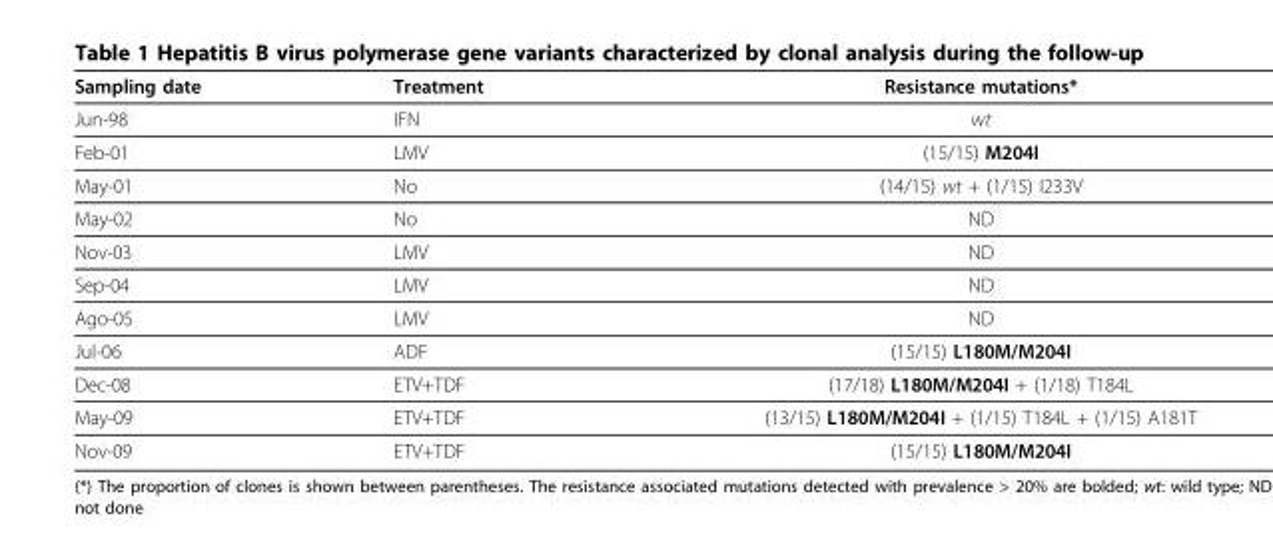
<table><thead><tr><td>Sampling date</td><td>Treatment</td><td>Resistance mutations*</td></tr></thead><tbody><tr><td>Jun-98</td><td>IFN</td><td>wt</td></tr><tr><td>Feb-01</td><td>LMV</td><td>(15/15) M204I</td></tr><tr><td>May-01</td><td>No</td><td>(14/15) wt + (1/15) I233V</td></tr><tr><td>May-02</td><td>No</td><td>ND</td></tr><tr><td>Nov-03</td><td>LMV</td><td>ND</td></tr><tr><td>Sep-04</td><td>LMV</td><td>ND</td></tr><tr><td>Ago-05</td><td>LMV</td><td>ND</td></tr><tr><td>Jul-06</td><td>ADF</td><td>(15/15) L180M/M204I</td></tr><tr><td>Dec-08</td><td>ETV+TDF</td><td>(17/18) L180M/M204I + (1/18) T184L</td></tr><tr><td>May-09</td><td>ETV+TDF</td><td>(13/15) L180M/M204I + (1/15) T184L + (1/15) A181T</td></tr><tr><td>Nov-09</td><td>ETV+TDF</td><td>(15/15) L180M/M204I</td></tr></tbody></table>